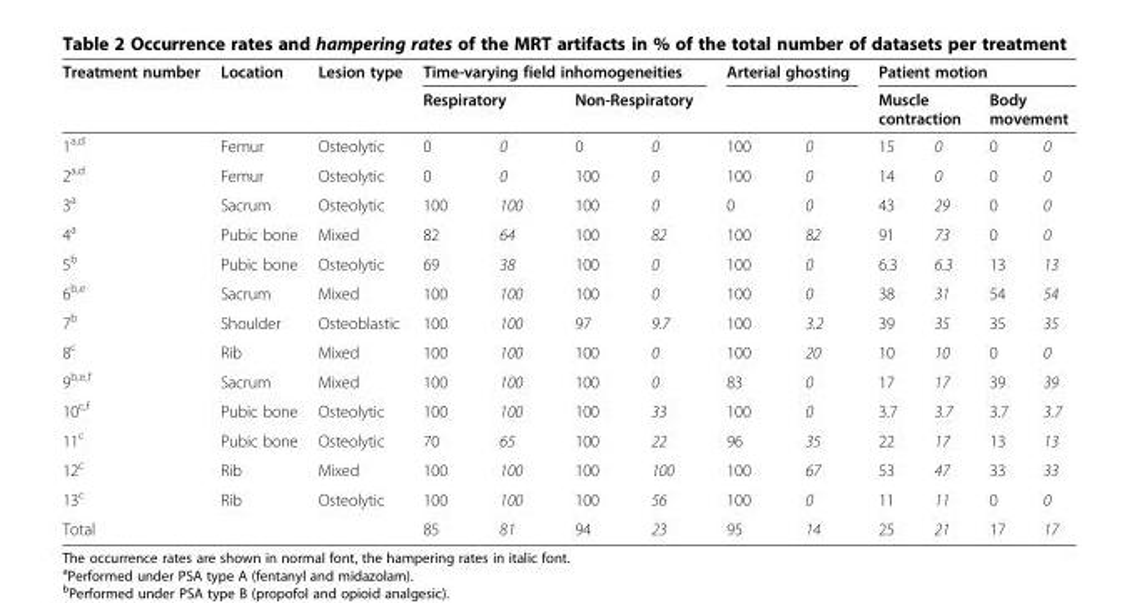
<table><thead><tr><td rowspan="3">Treatment number 1<sup>a,d</sup></td><td rowspan="3">Location Femur</td><td rowspan="3">Lesion type Osteolytic</td><td colspan="4">Time-varying field inhomogeneities</td><td colspan="2">Arterial ghosting</td><td colspan="4">Patient motion</td></tr><tr><td colspan="2">Respiratory</td><td colspan="2">Non-Respiratory</td><td rowspan="2">100</td><td rowspan="2">0</td><td colspan="2">Muscle contraction</td><td colspan="2">Body movement</td></tr><tr><td>0</td><td>0</td><td>0</td><td>0</td><td>15</td><td>0</td><td>0</td><td>0</td></tr></thead><tbody><tr><td>2<sup>a,d</sup></td><td>Femur</td><td>Osteolytic</td><td>0</td><td>0</td><td>100</td><td>0</td><td>100</td><td>0</td><td>14</td><td>0</td><td>0</td><td>0</td></tr><tr><td>3<sup>a</sup></td><td>Sacrum</td><td>Osteolytic</td><td>100</td><td>100</td><td>100</td><td>0</td><td>0</td><td>0</td><td>43</td><td>29</td><td>0</td><td>0</td></tr><tr><td>4<sup>a</sup></td><td>Pubic bone</td><td>Mixed</td><td>82</td><td>64</td><td>100</td><td>82</td><td>100</td><td>82</td><td>91</td><td>73</td><td>0</td><td>0</td></tr><tr><td>5<sup>b</sup></td><td>Pubic bone</td><td>Osteolytic</td><td>69</td><td>38</td><td>100</td><td>0</td><td>100</td><td>0</td><td>6.3</td><td>6.3</td><td>13</td><td>13</td></tr><tr><td>6<sup>b,e</sup></td><td>Sacrum</td><td>Mixed</td><td>100</td><td>100</td><td>100</td><td>0</td><td>100</td><td>0</td><td>38</td><td>31</td><td>54</td><td>54</td></tr><tr><td>7<sup>b</sup></td><td>Shoulder</td><td>Osteoblastic</td><td>100</td><td>100</td><td>97</td><td>9.7</td><td>100</td><td>3.2</td><td>39</td><td>35</td><td>35</td><td>35</td></tr><tr><td>8<sup>c</sup></td><td>Rib</td><td>Mixed</td><td>100</td><td>100</td><td>100</td><td>0</td><td>100</td><td>20</td><td>10</td><td>10</td><td>0</td><td>0</td></tr><tr><td>9<sup>b,e,f</sup></td><td>Sacrum</td><td>Mixed</td><td>100</td><td>100</td><td>100</td><td>0</td><td>83</td><td>0</td><td>17</td><td>17</td><td>39</td><td>39</td></tr><tr><td>10<sup>c,f</sup></td><td>Pubic bone</td><td>Osteolytic</td><td>100</td><td>100</td><td>100</td><td>33</td><td>100</td><td>0</td><td>3.7</td><td>3.7</td><td>3.7</td><td>3.7</td></tr><tr><td>11<sup>c</sup></td><td>Pubic bone</td><td>Osteolytic</td><td>70</td><td>65</td><td>100</td><td>22</td><td>96</td><td>35</td><td>22</td><td>17</td><td>13</td><td>13</td></tr><tr><td>12<sup>c</sup></td><td>Rib</td><td>Mixed</td><td>100</td><td>100</td><td>100</td><td>100</td><td>100</td><td>67</td><td>53</td><td>47</td><td>33</td><td>33</td></tr><tr><td>13<sup>c</sup></td><td>Rib</td><td>Osteolytic</td><td>100</td><td>100</td><td>100</td><td>56</td><td>100</td><td>0</td><td>11</td><td>11</td><td>0</td><td>0</td></tr><tr><td>Total</td><td></td><td></td><td>85</td><td>81</td><td>94</td><td>23</td><td>95</td><td>14</td><td>25</td><td>21</td><td>17</td><td>17</td></tr></tbody></table>